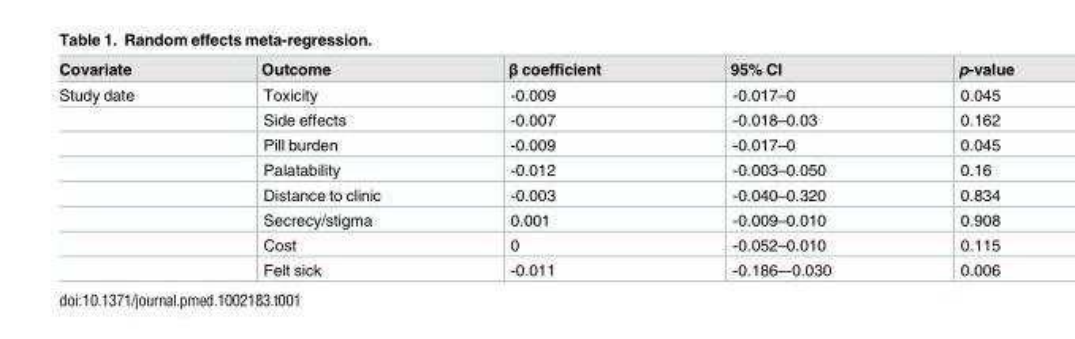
<table><thead><tr><td>Covariate</td><td>Outcome</td><td>β coefficient</td><td>95% CI</td><td>p-value</td></tr></thead><tbody><tr><td rowspan="8">Study date</td><td>Toxicity</td><td>-0.009</td><td>-0.017–0</td><td>0.045</td></tr><tr><td>Side effects</td><td>-0.007</td><td>-0.018–0.03</td><td>0.162</td></tr><tr><td>Pill burden</td><td>-0.009</td><td>-0.017–0</td><td>0.045</td></tr><tr><td>Palatability</td><td>-0.012</td><td>-0.003–0.050</td><td>0.16</td></tr><tr><td>Distance to clinic</td><td>-0.003</td><td>-0.040–0.320</td><td>0.834</td></tr><tr><td>Secrecy/stigma</td><td>0.001</td><td>-0.009–0.010</td><td>0.908</td></tr><tr><td>Cost</td><td>0</td><td>-0.052–0.010</td><td>0.115</td></tr><tr><td>Felt sick</td><td>-0.011</td><td>-0.186–-0.030</td><td>0.006</td></tr></tbody></table>